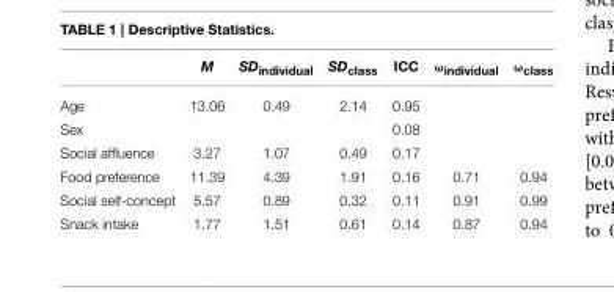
<table><thead><tr><td></td><td>M</td><td>SD<sub>individual</sub></td><td>SD<sub>class</sub></td><td>ICC</td><td>ω<sub>individual</sub></td><td>ω<sub>class</sub></td></tr></thead><tbody><tr><td>Age</td><td>13.06</td><td>0.49</td><td>2.14</td><td>0.95</td><td></td><td></td></tr><tr><td>Sex</td><td></td><td></td><td></td><td>0.08</td><td></td><td></td></tr><tr><td>Social affluence</td><td>3.27</td><td>1.07</td><td>0.49</td><td>0.17</td><td></td><td></td></tr><tr><td>Food preference</td><td>11.39</td><td>4.39</td><td>1.91</td><td>0.16</td><td>0.71</td><td>0.94</td></tr><tr><td>Social self-concept</td><td>5.57</td><td>0.89</td><td>0.32</td><td>0.11</td><td>0.91</td><td>0.99</td></tr><tr><td>Snack intake</td><td>1.77</td><td>1.51</td><td>0.61</td><td>0.14</td><td>0.87</td><td>0.94</td></tr></tbody></table>